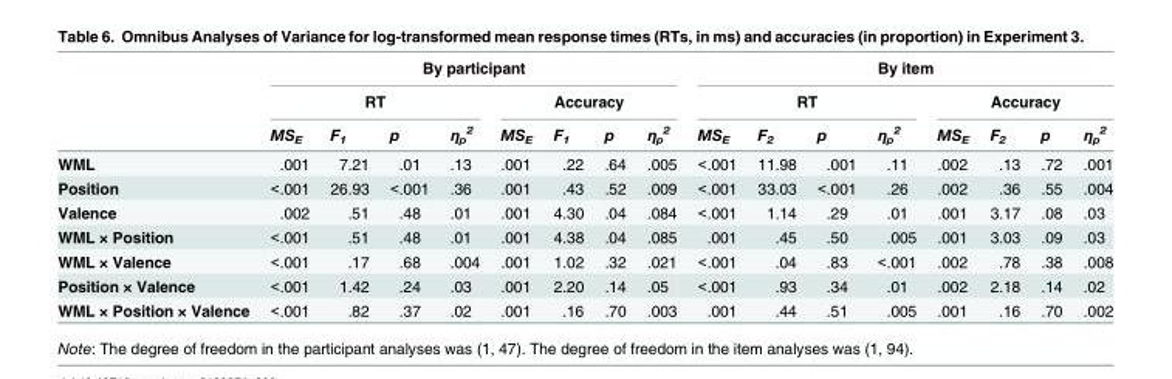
<table><thead><tr><td rowspan="3"></td><td colspan="8">By participant</td><td colspan="8">By item</td></tr><tr><td colspan="4">RT</td><td colspan="4">Accuracy</td><td colspan="4">RT</td><td colspan="4">Accuracy</td></tr><tr><td>MS<sub>E</sub></td><td>F<sub>1</sub></td><td>p</td><td>η<sub>p</sub> <sup>2</sup></td><td>MS<sub>E</sub></td><td>F<sub>1</sub></td><td>p</td><td>η<sub>p</sub> <sup>2</sup></td><td>MS<sub>E</sub></td><td>F<sub>2</sub></td><td>p</td><td>η<sub>p</sub> <sup>2</sup></td><td>MS<sub>E</sub></td><td>F<sub>2</sub></td><td>p</td><td>η<sub>p</sub> <sup>2</sup></td></tr></thead><tbody><tr><td>WML</td><td>.001</td><td>7.21</td><td>.01</td><td>.13</td><td>.001</td><td>.22</td><td>.64</td><td>.005</td><td>&lt;.001</td><td>11.98</td><td>.001</td><td>.11</td><td>.002</td><td>.13</td><td>.72</td><td>.001</td></tr><tr><td>Position</td><td>&lt;.001</td><td>26.93</td><td>&lt;.001</td><td>.36</td><td>.001</td><td>.43</td><td>.52</td><td>.009</td><td>&lt;.001</td><td>33.03</td><td>&lt;.001</td><td>.26</td><td>.002</td><td>.36</td><td>.55</td><td>.004</td></tr><tr><td>Valence</td><td>.002</td><td>.51</td><td>.48</td><td>.01</td><td>.001</td><td>4.30</td><td>.04</td><td>.084</td><td>&lt;.001</td><td>1.14</td><td>.29</td><td>.01</td><td>.001</td><td>3.17</td><td>.08</td><td>.03</td></tr><tr><td>WML × Position</td><td>&lt;.001</td><td>.51</td><td>.48</td><td>.01</td><td>.001</td><td>4.38</td><td>.04</td><td>.085</td><td>.001</td><td>.45</td><td>.50</td><td>.005</td><td>.001</td><td>3.03</td><td>.09</td><td>.03</td></tr><tr><td>WML × Valence</td><td>&lt;.001</td><td>.17</td><td>.68</td><td>.004</td><td>.001</td><td>1.02</td><td>.32</td><td>.021</td><td>&lt;.001</td><td>.04</td><td>.83</td><td>&lt;.001</td><td>.002</td><td>.78</td><td>.38</td><td>.008</td></tr><tr><td>Position × Valence</td><td>&lt;.001</td><td>1.42</td><td>.24</td><td>.03</td><td>.001</td><td>2.20</td><td>.14</td><td>.05</td><td>&lt;.001</td><td>.93</td><td>.34</td><td>.01</td><td>.002</td><td>2.18</td><td>.14</td><td>.02</td></tr><tr><td>WML × Position × Valence</td><td>&lt;.001</td><td>.82</td><td>.37</td><td>.02</td><td>.001</td><td>.16</td><td>.70</td><td>.003</td><td>.001</td><td>.44</td><td>.51</td><td>.005</td><td>.001</td><td>.16</td><td>.70</td><td>.002</td></tr></tbody></table>